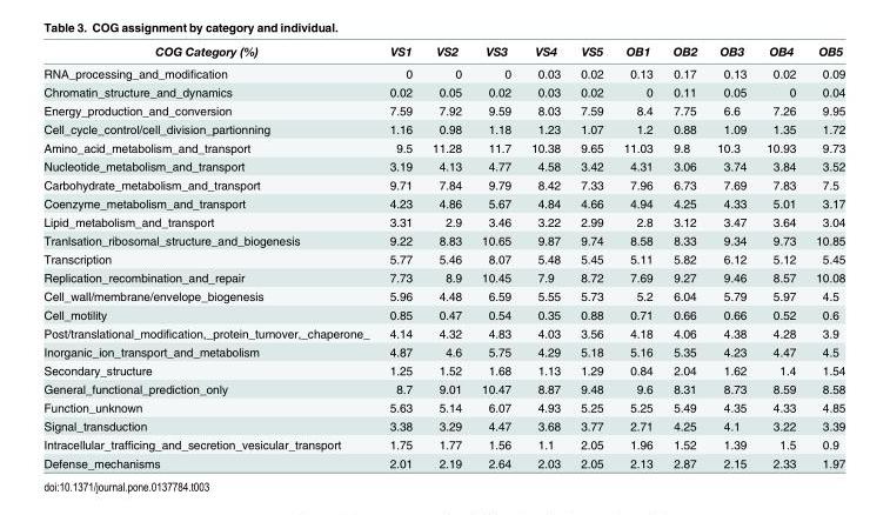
<table><thead><tr><td>COG Category (%)</td><td>VS1</td><td>VS2</td><td>VS3</td><td>VS4</td><td>VS5</td><td>OB1</td><td>OB2</td><td>OB3</td><td>OB4</td><td>OB5</td></tr></thead><tbody><tr><td>RNA_processing_and_modification</td><td>0</td><td>0</td><td>0</td><td>0.03</td><td>0.02</td><td>0.13</td><td>0.17</td><td>0.13</td><td>0.02</td><td>0.09</td></tr><tr><td>Chromatin_structure_and_dynamics</td><td>0.02</td><td>0.05</td><td>0.02</td><td>0.03</td><td>0.02</td><td>0</td><td>0.11</td><td>0.05</td><td>0</td><td>0.04</td></tr><tr><td>Energy_production_and_conversion</td><td>7.59</td><td>7.92</td><td>9.59</td><td>8.03</td><td>7.59</td><td>8.4</td><td>7.75</td><td>6.6</td><td>7.26</td><td>9.95</td></tr><tr><td>Cell_cycle_control/cell_division_partionning</td><td>1.16</td><td>0.98</td><td>1.18</td><td>1.23</td><td>1.07</td><td>1.2</td><td>0.88</td><td>1.09</td><td>1.35</td><td>1.72</td></tr><tr><td>Amino_acid_metabolism_and_transport</td><td>9.5</td><td>11.28</td><td>11.7</td><td>10.38</td><td>9.65</td><td>11.03</td><td>9.8</td><td>10.3</td><td>10.93</td><td>9.73</td></tr><tr><td>Nucleotide_metabolism_and_transport</td><td>3.19</td><td>4.13</td><td>4.77</td><td>4.58</td><td>3.42</td><td>4.31</td><td>3.06</td><td>3.74</td><td>3.84</td><td>3.52</td></tr><tr><td>Carbohydrate_metabolism_and_transport</td><td>9.71</td><td>7.84</td><td>9.79</td><td>8.42</td><td>7.33</td><td>7.96</td><td>6.73</td><td>7.69</td><td>7.83</td><td>7.5</td></tr><tr><td>Coenzyme_metabolism_and_transport</td><td>4.23</td><td>4.86</td><td>5.67</td><td>4.84</td><td>4.66</td><td>4.94</td><td>4.25</td><td>4.33</td><td>5.01</td><td>3.17</td></tr><tr><td>Lipid_metabolism_and_transport</td><td>3.31</td><td>2.9</td><td>3.46</td><td>3.22</td><td>2.99</td><td>2.8</td><td>3.12</td><td>3.47</td><td>3.64</td><td>3.04</td></tr><tr><td>Tranlsation_ribosomal_structure_and_biogenesis</td><td>9.22</td><td>8.83</td><td>10.65</td><td>9.87</td><td>9.74</td><td>8.58</td><td>8.33</td><td>9.34</td><td>9.73</td><td>10.85</td></tr><tr><td>Transcription</td><td>5.77</td><td>5.46</td><td>8.07</td><td>5.48</td><td>5.45</td><td>5.11</td><td>5.82</td><td>6.12</td><td>5.12</td><td>5.45</td></tr><tr><td>Replication_recombination_and_repair</td><td>7.73</td><td>8.9</td><td>10.45</td><td>7.9</td><td>8.72</td><td>7.69</td><td>9.27</td><td>9.46</td><td>8.57</td><td>10.08</td></tr><tr><td>Cell_wall/membrane/envelope_biogenesis</td><td>5.96</td><td>4.48</td><td>6.59</td><td>5.55</td><td>5.73</td><td>5.2</td><td>6.04</td><td>5.79</td><td>5.97</td><td>4.5</td></tr><tr><td>Cell_motility</td><td>0.85</td><td>0.47</td><td>0.54</td><td>0.35</td><td>0.88</td><td>0.71</td><td>0.66</td><td>0.66</td><td>0.52</td><td>0.6</td></tr><tr><td>Post/translational_modification,_protein_turnover,_chaperone_</td><td>4.14</td><td>4.32</td><td>4.83</td><td>4.03</td><td>3.56</td><td>4.18</td><td>4.06</td><td>4.38</td><td>4.28</td><td>3.9</td></tr><tr><td>Inorganic_ion_transport_and_metabolism</td><td>4.87</td><td>4.6</td><td>5.75</td><td>4.29</td><td>5.18</td><td>5.16</td><td>5.35</td><td>4.23</td><td>4.47</td><td>4.5</td></tr><tr><td>Secondary_structure</td><td>1.25</td><td>1.52</td><td>1.68</td><td>1.13</td><td>1.29</td><td>0.84</td><td>2.04</td><td>1.62</td><td>1.4</td><td>1.54</td></tr><tr><td>General_functional_prediction_only</td><td>8.7</td><td>9.01</td><td>10.47</td><td>8.87</td><td>9.48</td><td>9.6</td><td>8.31</td><td>8.73</td><td>8.59</td><td>8.58</td></tr><tr><td>Function_unknown</td><td>5.63</td><td>5.14</td><td>6.07</td><td>4.93</td><td>5.25</td><td>5.25</td><td>5.49</td><td>4.35</td><td>4.33</td><td>4.85</td></tr><tr><td>Signal_transduction</td><td>3.38</td><td>3.29</td><td>4.47</td><td>3.68</td><td>3.77</td><td>2.71</td><td>4.25</td><td>4.1</td><td>3.22</td><td>3.39</td></tr><tr><td>Intracellular_trafficing_and_secretion_vesicular_transport</td><td>1.75</td><td>1.77</td><td>1.56</td><td>1.1</td><td>2.05</td><td>1.96</td><td>1.52</td><td>1.39</td><td>1.5</td><td>0.9</td></tr><tr><td>Defense_mechanisms</td><td>2.01</td><td>2.19</td><td>2.64</td><td>2.03</td><td>2.05</td><td>2.13</td><td>2.87</td><td>2.15</td><td>2.33</td><td>1.97</td></tr></tbody></table>